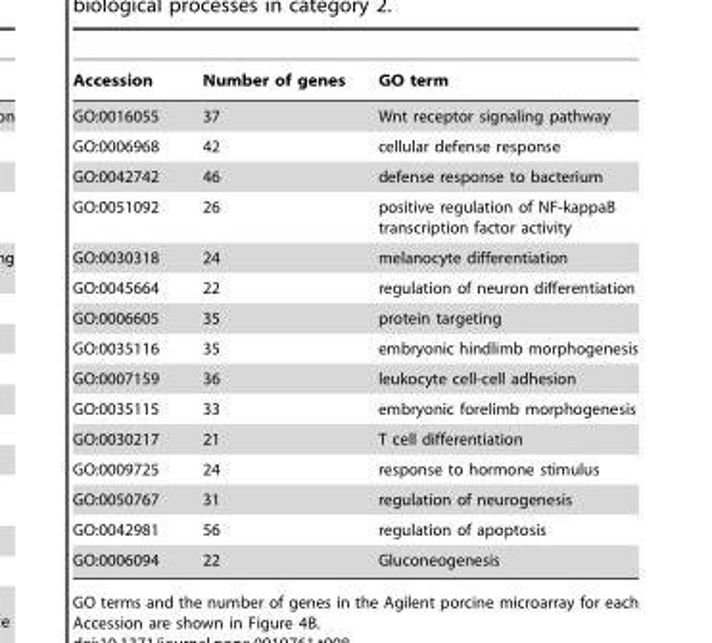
<table><thead><tr><td>Accession</td><td>Number of genes</td><td>GO term</td></tr></thead><tbody><tr><td>GO:0016055</td><td>37</td><td>Wnt receptor signaling pathway</td></tr><tr><td>GO:0006968</td><td>42</td><td>cellular defense response</td></tr><tr><td>GO:0042742</td><td>46</td><td>defense response to bacterium</td></tr><tr><td>GO:0051092</td><td>26</td><td>positive regulation of NF-kappaB transcription factor activity</td></tr><tr><td>GO:0030318</td><td>24</td><td>melanocyte differentiation</td></tr><tr><td>GO:0045664</td><td>22</td><td>regulation of neuron differentiation</td></tr><tr><td>GO:0006605</td><td>35</td><td>protein targeting</td></tr><tr><td>GO:0035116</td><td>35</td><td>embryonic hindlimb morphogenesis</td></tr><tr><td>GO:0007159</td><td>36</td><td>leukocyte cell-cell adhesion</td></tr><tr><td>GO:0035115</td><td>33</td><td>embryonic forelimb morphogenesis</td></tr><tr><td>GO:0030217</td><td>21</td><td>T cell differentiation</td></tr><tr><td>GO:0009725</td><td>24</td><td>response to hormone stimulus</td></tr><tr><td>GO:0050767</td><td>31</td><td>regulation of neurogenesis</td></tr><tr><td>GO:0042981</td><td>56</td><td>regulation of apoptosis</td></tr><tr><td>GO:0006094</td><td>22</td><td>Gluconeogenesis</td></tr></tbody></table>